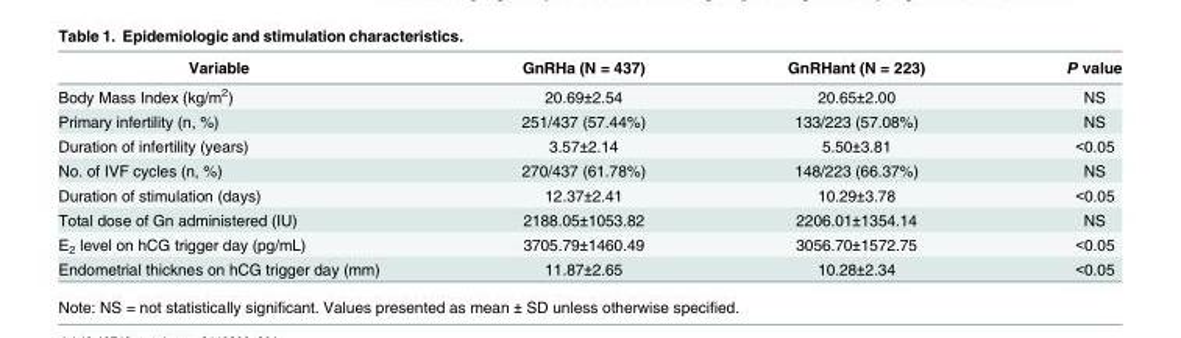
<table><thead><tr><td>Variable</td><td>GnRHa (N = 437)</td><td>GnRHant (N = 223)</td><td>P value</td></tr></thead><tbody><tr><td>Body Mass Index (kg/m<sup>2</sup>)</td><td>20.69±2.54</td><td>20.65±2.00</td><td>NS</td></tr><tr><td>Primary infertility (n, %)</td><td>251/437 (57.44%)</td><td>133/223 (57.08%)</td><td>NS</td></tr><tr><td>Duration of infertility (years)</td><td>3.57±2.14</td><td>5.50±3.81</td><td>&lt;0.05</td></tr><tr><td>No. of IVF cycles (n, %)</td><td>270/437 (61.78%)</td><td>148/223 (66.37%)</td><td>NS</td></tr><tr><td>Duration of stimulation (days)</td><td>12.37±2.41</td><td>10.29±3.78</td><td>&lt;0.05</td></tr><tr><td>Total dose of Gn administered (IU)</td><td>2188.05±1053.82</td><td>2206.01±1354.14</td><td>NS</td></tr><tr><td>E<sub>2</sub> level on hCG trigger day (pg/mL)</td><td>3705.79±1460.49</td><td>3056.70±1572.75</td><td>&lt;0.05</td></tr><tr><td>Endometrial thicknes on hCG trigger day (mm)</td><td>11.87±2.65</td><td>10.28±2.34</td><td>&lt;0.05</td></tr></tbody></table>